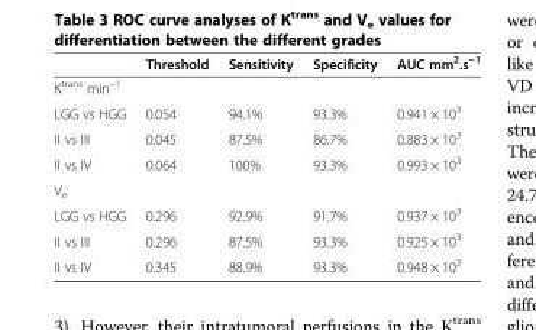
<table><thead><tr><td></td><td>Threshold</td><td>Sensitivity</td><td>Specificity</td><td>AUC mm<sup>2</sup>.s<sup>−1</sup></td></tr></thead><tbody><tr><td colspan="5">K<sup>trans</sup> min<sup>−1</sup></td></tr><tr><td>LGG vs HGG</td><td>0.054</td><td>94.1%</td><td>93.3%</td><td>0.941 × 10<sup>3</sup></td></tr><tr><td>II vs III</td><td>0.045</td><td>87.5%</td><td>86.7%</td><td>0.883 × 10<sup>3</sup></td></tr><tr><td>II vs IV</td><td>0.064</td><td>100%</td><td>93.3%</td><td>0.993 × 10<sup>3</sup></td></tr><tr><td colspan="5">V<sub>e</sub></td></tr><tr><td>LGG vs HGG</td><td>0.296</td><td>92.9%</td><td>91.7%</td><td>0.937 × 10<sup>3</sup></td></tr><tr><td>II vs III</td><td>0.296</td><td>87.5%</td><td>93.3%</td><td>0.925 × 10<sup>3</sup></td></tr><tr><td>II vs IV</td><td>0.345</td><td>88.9%</td><td>93.3%</td><td>0.948 × 10<sup>3</sup></td></tr></tbody></table>